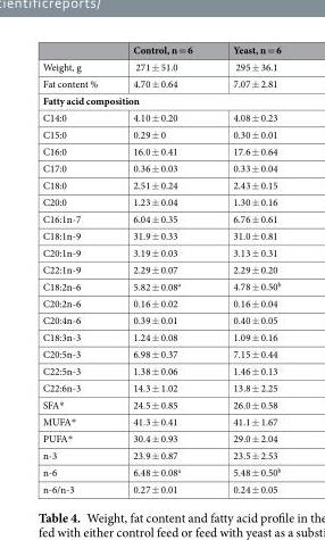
<table><thead><tr><td></td><td>Control, n = 6</td><td>Yeast, n = 6</td></tr></thead><tbody><tr><td>Weight, g</td><td>271 ± 51.0</td><td>295 ± 36.1</td></tr><tr><td>Fat content %</td><td>4.70 ± 0.64</td><td>7.07 ± 2.81</td></tr><tr><td colspan="3">Fatty acid composition</td></tr><tr><td>C14:0</td><td>4.10 ± 0.20</td><td>4.08 ± 0.23</td></tr><tr><td>C15:0</td><td>0.29 ± 0</td><td>0.30 ± 0.01</td></tr><tr><td>C16:0</td><td>16.0 ± 0.41</td><td>17.6 ± 0.64</td></tr><tr><td>C17:0</td><td>0.36 ± 0.03</td><td>0.33 ± 0.04</td></tr><tr><td>C18:0</td><td>2.51 ± 0.24</td><td>2.43 ± 0.15</td></tr><tr><td>C20:0</td><td>1.23 ± 0.04</td><td>1.30 ± 0.16</td></tr><tr><td>C16:1n-7</td><td>6.04 ± 0.35</td><td>6.76 ± 0.61</td></tr><tr><td>C18:1n-9</td><td>31.9 ± 0.33</td><td>31.0 ± 0.81</td></tr><tr><td>C20:1n-9</td><td>3.19 ± 0.03</td><td>3.13 ± 0.31</td></tr><tr><td>C22:1n-9</td><td>2.29 ± 0.07</td><td>2.29 ± 0.20</td></tr><tr><td>C18:2n-6</td><td>5.82 ± 0.08<sup>a</sup></td><td>4.78 ± 0.50<sup>b</sup></td></tr><tr><td>C20:2n-6</td><td>0.16 ± 0.02</td><td>0.16 ± 0.04</td></tr><tr><td>C20:4n-6</td><td>0.39 ± 0.01</td><td>0.40 ± 0.05</td></tr><tr><td>C18:3n-3</td><td>1.24 ± 0.08</td><td>1.09 ± 0.16</td></tr><tr><td>C20:5n-3</td><td>6.98 ± 0.37</td><td>7.15 ± 0.44</td></tr><tr><td>C22:5n-3</td><td>1.38 ± 0.06</td><td>1.46 ± 0.13</td></tr><tr><td>C22:6n-3</td><td>14.3 ± 1.02</td><td>13.8 ± 2.25</td></tr><tr><td>SFA*</td><td>24.5 ± 0.85</td><td>26.0 ± 0.58</td></tr><tr><td>MUFA*</td><td>41.3 ± 0.41</td><td>41.1 ± 1.67</td></tr><tr><td>PUFA*</td><td>30.4 ± 0.93</td><td>29.0 ± 2.04</td></tr><tr><td>n-3</td><td>23.9 ± 0.87</td><td>23.5 ± 2.53</td></tr><tr><td>n-6</td><td>6.48 ± 0.08<sup>a</sup></td><td>5.48 ± 0.50<sup>b</sup></td></tr><tr><td>n-6/n-3</td><td>0.27 ± 0.01</td><td>0.24 ± 0.05</td></tr></tbody></table>